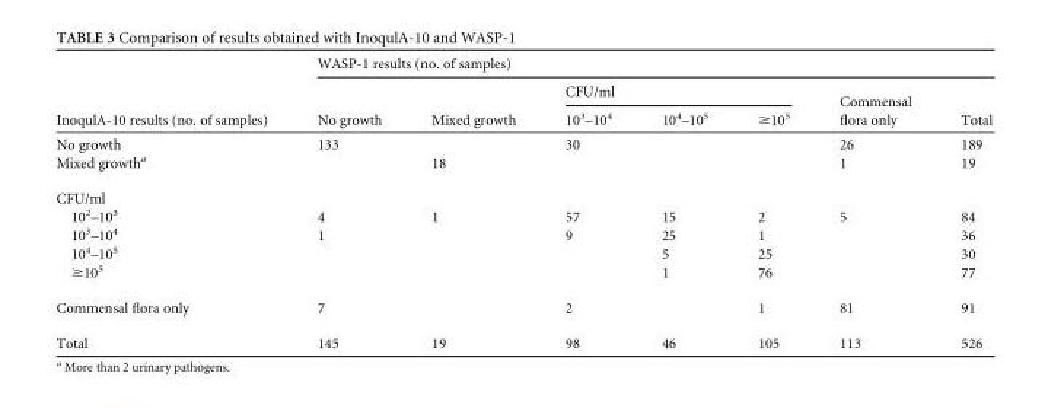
<table><thead><tr><td rowspan="3">InoqulA-10 results (no. of samples)</td><td colspan="7">WASP-1 results (no. of samples)</td></tr><tr><td rowspan="2">No growth</td><td rowspan="2">Mixed growth</td><td colspan="3">CFU/ml</td><td rowspan="2">Commensal flora only</td><td rowspan="2">Total</td></tr><tr><td>10<sup>3</sup>–10<sup>4</sup></td><td>10<sup>4</sup>–10<sup>5</sup></td><td>≥10<sup>5</sup></td></tr></thead><tbody><tr><td>No growth</td><td>133</td><td></td><td>30</td><td></td><td></td><td>26</td><td>189</td></tr><tr><td>Mixed growth<sup>a</sup></td><td></td><td>18</td><td></td><td></td><td></td><td>1</td><td>19</td></tr><tr><td colspan="8">CFU/ml</td></tr><tr><td>10<sup>2</sup>–10<sup>3</sup></td><td>4</td><td>1</td><td>57</td><td>15</td><td>2</td><td>5</td><td>84</td></tr><tr><td>10<sup>3</sup>–10<sup>4</sup></td><td>1</td><td></td><td>9</td><td>25</td><td>1</td><td></td><td>36</td></tr><tr><td>10<sup>4</sup>–10<sup>5</sup></td><td></td><td></td><td></td><td>5</td><td>25</td><td></td><td>30</td></tr><tr><td>≥10<sup>5</sup></td><td></td><td></td><td></td><td>1</td><td>76</td><td></td><td>77</td></tr><tr><td>Commensal flora only</td><td>7</td><td></td><td>2</td><td></td><td>1</td><td>81</td><td>91</td></tr><tr><td>Total</td><td>145</td><td>19</td><td>98</td><td>46</td><td>105</td><td>113</td><td>526</td></tr></tbody></table>